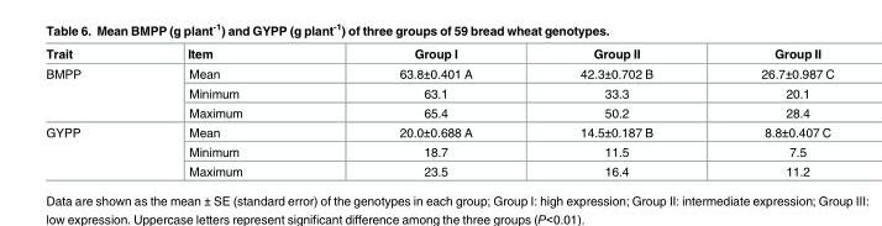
<table><thead><tr><td>Trait</td><td>Item</td><td>Group I</td><td>Group II</td><td>Group II</td></tr></thead><tbody><tr><td rowspan="3">BMPP</td><td>Mean</td><td>63.8±0.401 A</td><td>42.3±0.702 B</td><td>26.7±0.987 C</td></tr><tr><td>Minimum</td><td>63.1</td><td>33.3</td><td>20.1</td></tr><tr><td>Maximum</td><td>65.4</td><td>50.2</td><td>28.4</td></tr><tr><td rowspan="3">GYPP</td><td>Mean</td><td>20.0±0.688 A</td><td>14.5±0.187 B</td><td>8.8±0.407 C</td></tr><tr><td>Minimum</td><td>18.7</td><td>11.5</td><td>7.5</td></tr><tr><td>Maximum</td><td>23.5</td><td>16.4</td><td>11.2</td></tr></tbody></table>